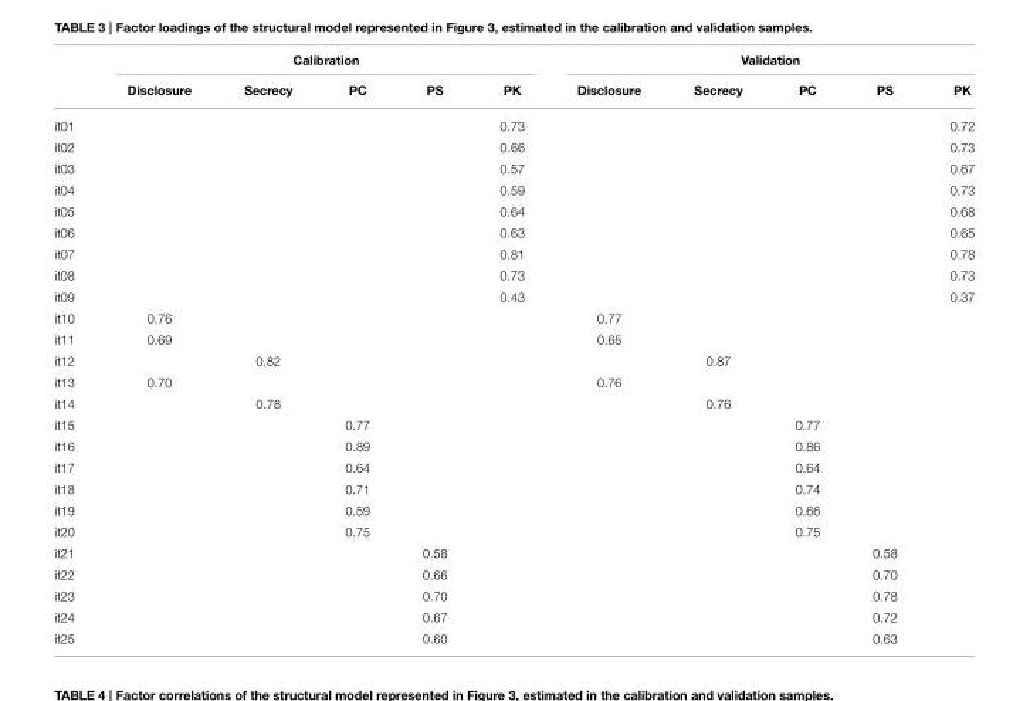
<table><thead><tr><td rowspan="2"></td><td colspan="5">Calibration</td><td colspan="5">Validation</td></tr><tr><td>Disclosure</td><td>Secrecy</td><td>PC</td><td>PS</td><td>PK</td><td>Disclosure</td><td>Secrecy</td><td>PC</td><td>PS</td><td>PK</td></tr></thead><tbody><tr><td>it01</td><td></td><td></td><td></td><td></td><td>0.73</td><td></td><td></td><td></td><td></td><td>0.72</td></tr><tr><td>it02</td><td></td><td></td><td></td><td></td><td>0.66</td><td></td><td></td><td></td><td></td><td>0.73</td></tr><tr><td>it03</td><td></td><td></td><td></td><td></td><td>0.57</td><td></td><td></td><td></td><td></td><td>0.67</td></tr><tr><td>it04</td><td></td><td></td><td></td><td></td><td>0.59</td><td></td><td></td><td></td><td></td><td>0.73</td></tr><tr><td>it05</td><td></td><td></td><td></td><td></td><td>0.64</td><td></td><td></td><td></td><td></td><td>0.68</td></tr><tr><td>it06</td><td></td><td></td><td></td><td></td><td>0.63</td><td></td><td></td><td></td><td></td><td>0.65</td></tr><tr><td>it07</td><td></td><td></td><td></td><td></td><td>0.81</td><td></td><td></td><td></td><td></td><td>0.78</td></tr><tr><td>it08</td><td></td><td></td><td></td><td></td><td>0.73</td><td></td><td></td><td></td><td></td><td>0.73</td></tr><tr><td>it09</td><td></td><td></td><td></td><td></td><td>0.43</td><td></td><td></td><td></td><td></td><td>0.37</td></tr><tr><td>it10</td><td>0.76</td><td></td><td></td><td></td><td></td><td>0.77</td><td></td><td></td><td></td><td></td></tr><tr><td>it11</td><td>0.69</td><td></td><td></td><td></td><td></td><td>0.65</td><td></td><td></td><td></td><td></td></tr><tr><td>it12</td><td></td><td>0.82</td><td></td><td></td><td></td><td></td><td>0.87</td><td></td><td></td><td></td></tr><tr><td>it13</td><td>0.70</td><td></td><td></td><td></td><td></td><td>0.76</td><td></td><td></td><td></td><td></td></tr><tr><td>it14</td><td></td><td>0.78</td><td></td><td></td><td></td><td></td><td>0.76</td><td></td><td></td><td></td></tr><tr><td>it15</td><td></td><td></td><td>0.77</td><td></td><td></td><td></td><td></td><td>0.77</td><td></td><td></td></tr><tr><td>it16</td><td></td><td></td><td>0.89</td><td></td><td></td><td></td><td></td><td>0.86</td><td></td><td></td></tr><tr><td>it17</td><td></td><td></td><td>0.64</td><td></td><td></td><td></td><td></td><td>0.64</td><td></td><td></td></tr><tr><td>it18</td><td></td><td></td><td>0.71</td><td></td><td></td><td></td><td></td><td>0.74</td><td></td><td></td></tr><tr><td>it19</td><td></td><td></td><td>0.59</td><td></td><td></td><td></td><td></td><td>0.66</td><td></td><td></td></tr><tr><td>it20</td><td></td><td></td><td>0.75</td><td></td><td></td><td></td><td></td><td>0.75</td><td></td><td></td></tr><tr><td>it21</td><td></td><td></td><td></td><td>0.58</td><td></td><td></td><td></td><td></td><td>0.58</td><td></td></tr><tr><td>it22</td><td></td><td></td><td></td><td>0.66</td><td></td><td></td><td></td><td></td><td>0.70</td><td></td></tr><tr><td>it23</td><td></td><td></td><td></td><td>0.70</td><td></td><td></td><td></td><td></td><td>0.78</td><td></td></tr><tr><td>it24</td><td></td><td></td><td></td><td>0.67</td><td></td><td></td><td></td><td></td><td>0.72</td><td></td></tr><tr><td>it25</td><td></td><td></td><td></td><td>0.60</td><td></td><td></td><td></td><td></td><td>0.63</td><td></td></tr></tbody></table>